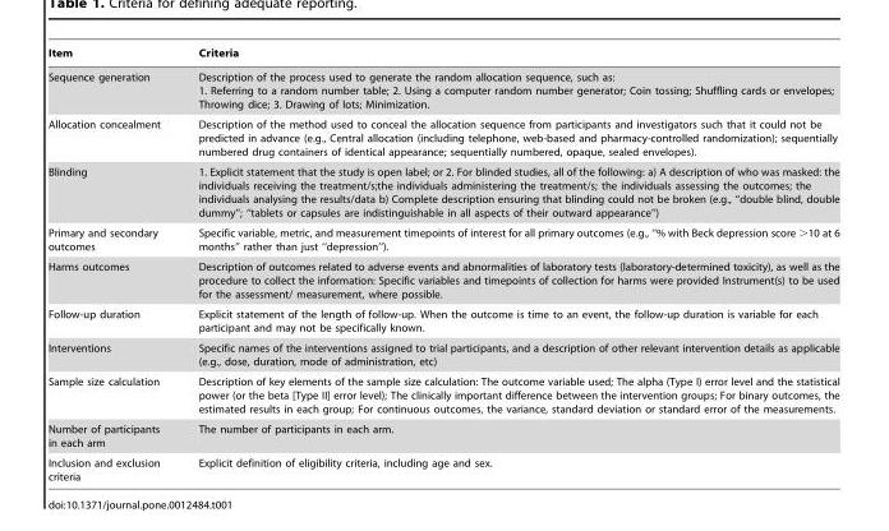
<table><thead><tr><td>Item</td><td>Criteria</td></tr></thead><tbody><tr><td>Sequence generation</td><td>Description of the process used to generate the random allocation sequence, such as: 1. Referring to a random number table; 2. Using a computer random number generator; Coin tossing; Shuffling cards or envelopes; Throwing dice; 3. Drawing of lots; Minimization.</td></tr><tr><td>Allocation concealment</td><td>Description of the method used to conceal the allocation sequence from participants and investigators such that it could not be predicted in advance (e.g., Central allocation (including telephone, web-based and pharmacy-controlled randomization); sequentially numbered drug containers of identical appearance; sequentially numbered, opaque, sealed envelopes).</td></tr><tr><td>Blinding</td><td>1. Explicit statement that the study is open label; or 2. For blinded studies, all of the following: a) A description of who was masked: the individuals receiving the treatment/s;the individuals administering the treatment/s; the individuals assessing the outcomes; the individuals analysing the results/data b) Complete description ensuring that blinding could not be broken (e.g., ‘‘double blind, double dummy’’; ‘‘tablets or capsules are indistinguishable in all aspects of their outward appearance’’)</td></tr><tr><td>Primary and secondary outcomes</td><td>Specific variable, metric, and measurement timepoints of interest for all primary outcomes (e.g., ‘‘% with Beck depression score .10 at 6 months’’ rather than just ‘‘depression’’).</td></tr><tr><td>Harms outcomes</td><td>Description of outcomes related to adverse events and abnormalities of laboratory tests (laboratory-determined toxicity), as well as the procedure to collect the information: Specific variables and timepoints of collection for harms were provided Instrument(s) to be used for the assessment/ measurement, where possible.</td></tr><tr><td>Follow-up duration</td><td>Explicit statement of the length of follow-up. When the outcome is time to an event, the follow-up duration is variable for each participant and may not be specifically known.</td></tr><tr><td>Interventions</td><td>Specific names of the interventions assigned to trial participants, and a description of other relevant intervention details as applicable (e.g., dose, duration, mode of administration, etc)</td></tr><tr><td>Sample size calculation</td><td>Description of key elements of the sample size calculation: The outcome variable used; The alpha (Type I) error level and the statistical power (or the beta [Type II] error level); The clinically important difference between the intervention groups; For binary outcomes, the estimated results in each group; For continuous outcomes, the variance, standard deviation or standard error of the measurements.</td></tr><tr><td>Number of participants in each arm</td><td>The number of participants in each arm.</td></tr><tr><td>Inclusion and exclusion criteria</td><td>Explicit definition of eligibility criteria, including age and sex.</td></tr></tbody></table>